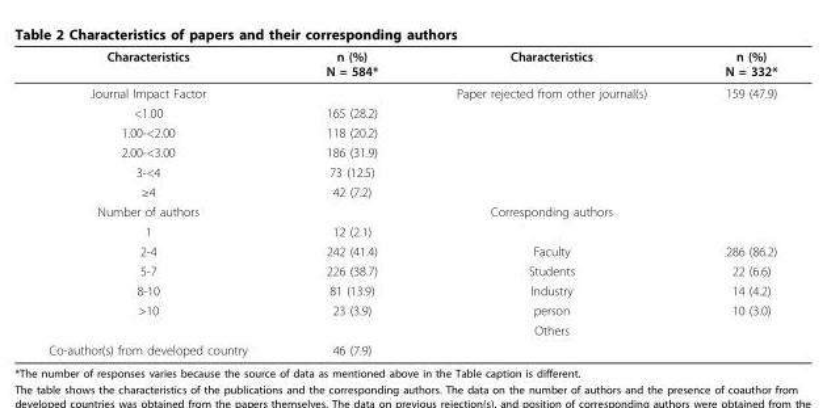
<table><thead><tr><td>Characteristics</td><td>n (%) N = 584*</td><td>Characteristics</td><td>n (%) N = 332*</td></tr></thead><tbody><tr><td>Journal Impact Factor</td><td></td><td>Paper rejected from other journal(s)</td><td>159 (47.9)</td></tr><tr><td>&lt;1.00</td><td>165 (28.2)</td><td></td><td></td></tr><tr><td>1.00-&lt;2.00</td><td>118 (20.2)</td><td></td><td></td></tr><tr><td>2.00-&lt;3.00</td><td>186 (31.9)</td><td></td><td></td></tr><tr><td>3-&lt;4</td><td>73 (12.5)</td><td></td><td></td></tr><tr><td>≥4</td><td>42 (7.2)</td><td></td><td></td></tr><tr><td>Number of authors</td><td></td><td>Corresponding authors</td><td></td></tr><tr><td>1</td><td>12 (2.1)</td><td></td><td></td></tr><tr><td>2-4</td><td>242 (41.4)</td><td>Faculty</td><td>286 (86.2)</td></tr><tr><td>5-7</td><td>226 (38.7)</td><td>Students</td><td>22 (6.6)</td></tr><tr><td>8-10</td><td>81 (13.9)</td><td>Industry</td><td>14 (4.2)</td></tr><tr><td rowspan="2">&gt;10</td><td>23 (3.9)</td><td>person</td><td>10 (3.0)</td></tr><tr><td></td><td>Others</td><td></td></tr><tr><td>Co-author(s) from developed country</td><td>46 (7.9)</td><td></td><td></td></tr></tbody></table>